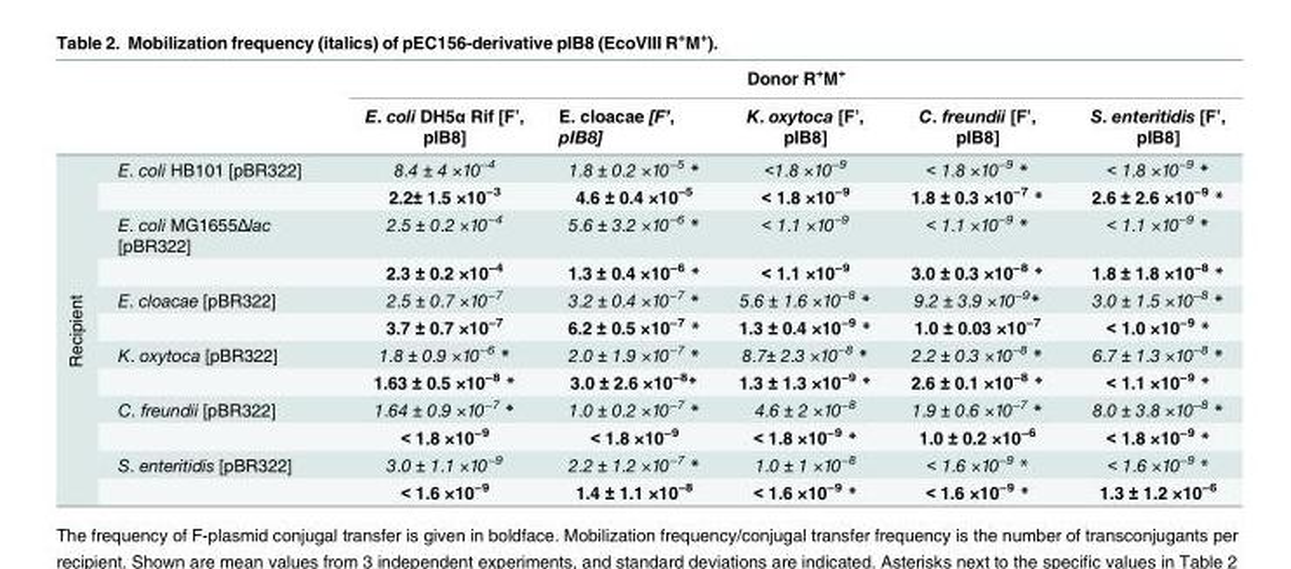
<table><thead><tr><td rowspan="2"></td><td rowspan="2"></td><td colspan="5">Donor R<sup>+</sup>M<sup>+</sup></td></tr><tr><td>E. coli DH5α Rif [F’, pIB8]</td><td>E. cloacae [F’, pIB8]</td><td>K. oxytoca [F’, pIB8]</td><td>C. freundii [F’, pIB8]</td><td>S. enteritidis [F’, pIB8]</td></tr></thead><tbody><tr><td rowspan="12">Recipient</td><td>E. coli HB101 [pBR322]</td><td>8.4 ± 4 ×10<sup>−4</sup></td><td>1.8 ± 0.2 ×10<sup>−5</sup> *</td><td>&lt;1.8 ×10<sup>−9</sup></td><td>&lt; 1.8 ×10<sup>−9</sup> *</td><td>&lt; 1.8 ×10<sup>−9</sup> *</td></tr><tr><td></td><td>2.2± 1.5 ×10<sup>−3</sup></td><td>4.6 ± 0.4 ×10<sup>−5</sup></td><td>&lt; 1.8 ×10<sup>−9</sup></td><td>1.8 ± 0.3 ×10<sup>−7</sup> *</td><td>2.6 ± 2.6 ×10<sup>−9</sup> *</td></tr><tr><td>E. coli MG1655Δlac [pBR322]</td><td>2.5 ± 0.2 ×10<sup>−4</sup></td><td>5.6 ± 3.2 ×10<sup>−6</sup> *</td><td>&lt; 1.1 ×10<sup>−9</sup></td><td>&lt; 1.1 ×10<sup>−9</sup> *</td><td>&lt; 1.1 ×10<sup>−9</sup> *</td></tr><tr><td></td><td>2.3 ± 0.2 ×10<sup>−4</sup></td><td>1.3 ± 0.4 ×10<sup>−6</sup> *</td><td>&lt; 1.1 ×10<sup>−9</sup></td><td>3.0 ± 0.3 ×10<sup>−8</sup> *</td><td>1.8 ± 1.8 ×10<sup>−8</sup> *</td></tr><tr><td>E. cloacae [pBR322]</td><td>2.5 ± 0.7 ×10<sup>−7</sup></td><td>3.2 ± 0.4 ×10<sup>−7</sup> *</td><td>5.6 ± 1.6 ×10<sup>−8</sup> *</td><td>9.2 ± 3.9 ×10<sup>−9</sup>*</td><td>3.0 ± 1.5 ×10<sup>−8</sup> *</td></tr><tr><td></td><td>3.7 ± 0.7 ×10<sup>−7</sup></td><td>6.2 ± 0.5 ×10<sup>−7</sup> *</td><td>1.3 ± 0.4 ×10<sup>−9</sup> *</td><td>1.0 ± 0.03 ×10<sup>−7</sup></td><td>&lt; 1.0 ×10<sup>−9</sup> *</td></tr><tr><td>K. oxytoca [pBR322]</td><td>1.8 ± 0.9 ×10<sup>−6</sup> *</td><td>2.0 ± 1.9 ×10<sup>−7</sup> *</td><td>8.7± 2.3 ×10<sup>−8</sup> *</td><td>2.2 ± 0.3 ×10<sup>−8</sup> *</td><td>6.7 ± 1.3 ×10<sup>−8</sup> *</td></tr><tr><td></td><td>1.63 ± 0.5 ×10<sup>−8</sup> *</td><td>3.0 ± 2.6 ×10<sup>−8</sup>*</td><td>1.3 ± 1.3 ×10<sup>−9</sup> *</td><td>2.6 ± 0.1 ×10<sup>−8</sup> *</td><td>&lt; 1.1 ×10<sup>−9</sup> *</td></tr><tr><td>C. freundii [pBR322]</td><td>1.64 ± 0.9 ×10<sup>−7</sup> *</td><td>1.0 ± 0.2 ×10<sup>−7</sup> *</td><td>4.6 ± 2 ×10<sup>−8</sup></td><td>1.9 ± 0.6 ×10<sup>−7</sup> *</td><td>8.0 ± 3.8 ×10<sup>−8</sup> *</td></tr><tr><td></td><td>&lt; 1.8 ×10<sup>−9</sup></td><td>&lt; 1.8 ×10<sup>−9</sup></td><td>&lt; 1.8 ×10<sup>−9</sup> *</td><td>1.0 ± 0.2 ×10<sup>−6</sup></td><td>&lt; 1.8 ×10<sup>−9</sup> *</td></tr><tr><td>S. enteritidis [pBR322]</td><td>3.0 ± 1.1 ×10<sup>−9</sup></td><td>2.2 ± 1.2 ×10<sup>−7</sup> *</td><td>1.0 ± 1 ×10<sup>−8</sup></td><td>&lt; 1.6 ×10<sup>−9</sup> *</td><td>&lt; 1.6 ×10<sup>−9</sup> *</td></tr><tr><td></td><td>&lt; 1.6 ×10<sup>−9</sup></td><td>1.4 ± 1.1 ×10<sup>−8</sup></td><td>&lt; 1.6 ×10<sup>−9</sup> *</td><td>&lt; 1.6 ×10<sup>−9</sup> *</td><td>1.3 ± 1.2 ×10<sup>−6</sup></td></tr></tbody></table>